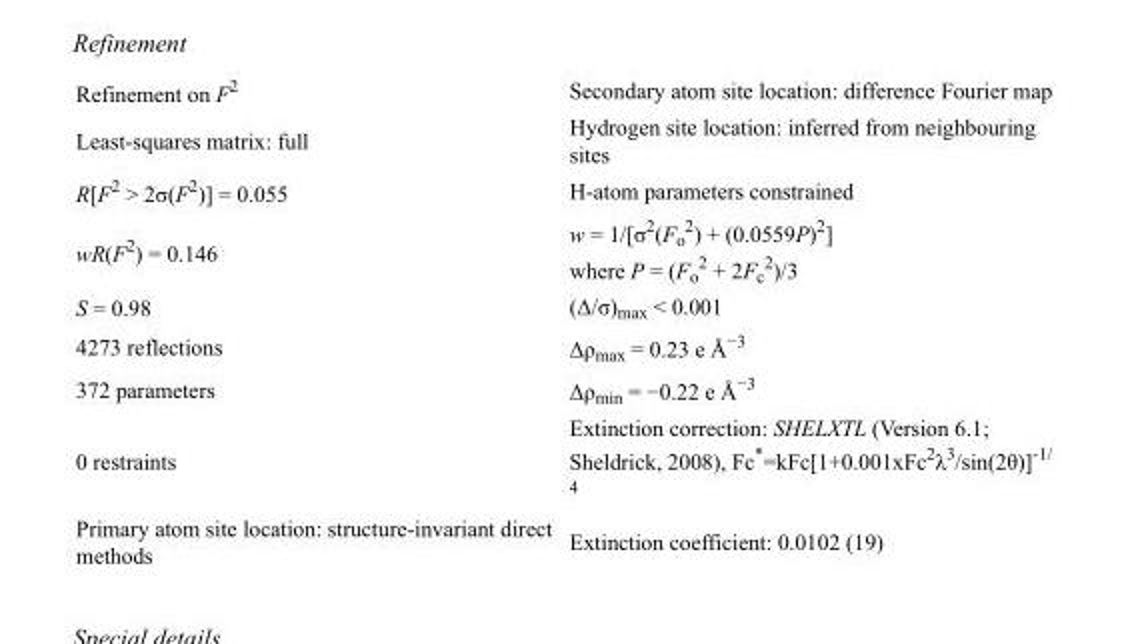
<table><tbody><tr><td>Refinement on F<sup>2</sup></td><td>Secondary atom site location: difference Fourier map</td></tr><tr><td>Least-squares matrix: full</td><td>Hydrogen site location: inferred from neighbouring sites</td></tr><tr><td>R[F<sup>2</sup> &gt; 2σ(F<sup>2</sup>)] = 0.055</td><td>H-atom parameters constrained</td></tr><tr><td>wR(F<sup>2</sup>) = 0.146</td><td>w = 1/[σ<sup>2</sup>(F<sub>o</sub> <sup>2</sup>) + (0.0559P)<sup>2</sup>] where P = (F<sub>o</sub> <sup>2</sup> + 2F<sub>c</sub> <sup>2</sup>)/3</td></tr><tr><td>S = 0.98</td><td>(Δ/σ)<sub>max</sub> &lt; 0.001</td></tr><tr><td>4273 reflections</td><td>Δρ<sub>max</sub> = 0.23 e Å<sup>−3</sup></td></tr><tr><td>372 parameters</td><td>Δρ<sub>min</sub> = −0.22 e Å<sup>−3</sup></td></tr><tr><td>0 restraints</td><td>Extinction correction: SHELXTL (Version 6.1; Sheldrick, 2008), Fc*=kFc[1+0.001xFc<sup>2</sup>λ<sup>3</sup>/sin(2θ)]<sup>-1/ 4</sup></td></tr><tr><td>Primary atom site location: structure-invariant direct methods</td><td>Extinction coefficient: 0.0102 (19)</td></tr></tbody></table>